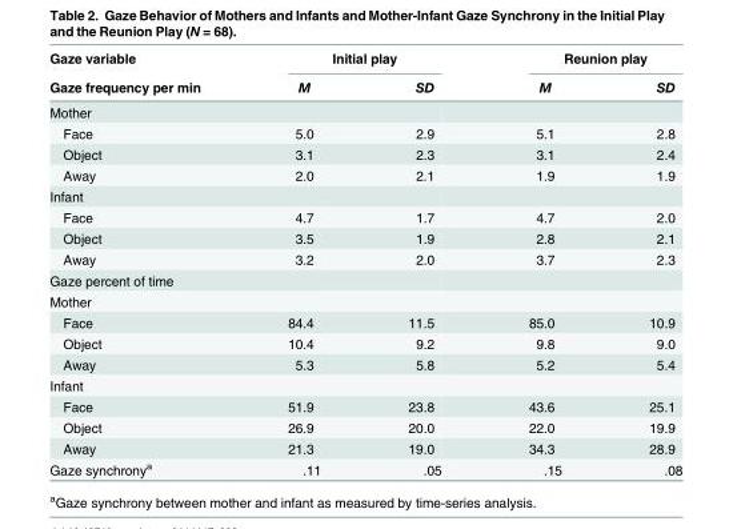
<table><thead><tr><td rowspan="2">Gaze variable Gaze frequency per min</td><td colspan="2">Initial play</td><td colspan="2">Reunion play</td></tr><tr><td>M</td><td>SD</td><td>M</td><td>SD</td></tr></thead><tbody><tr><td colspan="5">Mother</td></tr><tr><td>Face</td><td>5.0</td><td>2.9</td><td>5.1</td><td>2.8</td></tr><tr><td>Object</td><td>3.1</td><td>2.3</td><td>3.1</td><td>2.4</td></tr><tr><td>Away</td><td>2.0</td><td>2.1</td><td>1.9</td><td>1.9</td></tr><tr><td colspan="5">Infant</td></tr><tr><td>Face</td><td>4.7</td><td>1.7</td><td>4.7</td><td>2.0</td></tr><tr><td>Object</td><td>3.5</td><td>1.9</td><td>2.8</td><td>2.1</td></tr><tr><td>Away</td><td>3.2</td><td>2.0</td><td>3.7</td><td>2.3</td></tr><tr><td colspan="5">Gaze percent of time</td></tr><tr><td colspan="5">Mother</td></tr><tr><td>Face</td><td>84.4</td><td>11.5</td><td>85.0</td><td>10.9</td></tr><tr><td>Object</td><td>10.4</td><td>9.2</td><td>9.8</td><td>9.0</td></tr><tr><td>Away</td><td>5.3</td><td>5.8</td><td>5.2</td><td>5.4</td></tr><tr><td colspan="5">Infant</td></tr><tr><td>Face</td><td>51.9</td><td>23.8</td><td>43.6</td><td>25.1</td></tr><tr><td>Object</td><td>26.9</td><td>20.0</td><td>22.0</td><td>19.9</td></tr><tr><td>Away</td><td>21.3</td><td>19.0</td><td>34.3</td><td>28.9</td></tr><tr><td>Gaze synchrony<sup>a</sup></td><td>.11</td><td>.05</td><td>.15</td><td>.08</td></tr></tbody></table>